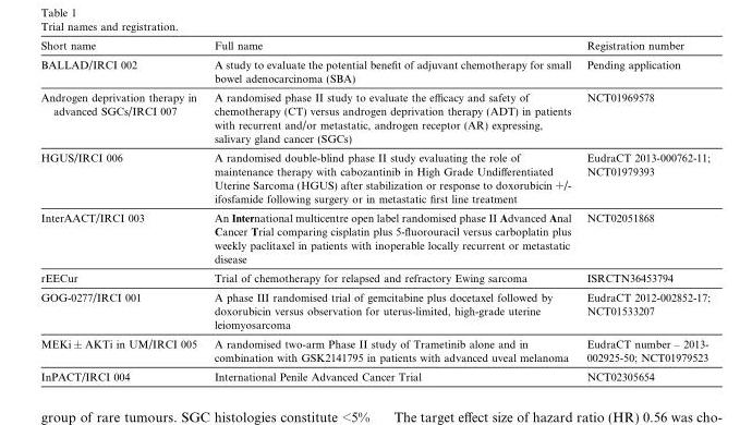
<table><thead><tr><td>Short name</td><td>Full name</td><td>Registration number</td></tr></thead><tbody><tr><td>BALLAD/IRCI 002</td><td>A study to evaluate the potential benefit of adjuvant chemotherapy for small bowel adenocarcinoma (SBA)</td><td>Pending application</td></tr><tr><td>Androgen deprivation therapy in advanced SGCs/IRCI 007</td><td>A randomised phase II study to evaluate the efficacy and safety of chemotherapy (CT) versus androgen deprivation therapy (ADT) in patients with recurrent and/or metastatic, androgen receptor (AR) expressing, salivary gland cancer (SGCs)</td><td>NCT01969578</td></tr><tr><td>HGUS/IRCI 006</td><td>A randomised double-blind phase II study evaluating the role of maintenance therapy with cabozantinib in High Grade Undifferentiated Uterine Sarcoma (HGUS) after stabilization or response to doxorubicin +/- ifosfamide following surgery or in metastatic first line treatment</td><td>EudraCT 2013-000762-11; NCT01979393</td></tr><tr><td>InterAACT/IRCI 003</td><td>An International multicentre open label randomised phase II Advanced Anal Cancer Trial comparing cisplatin plus 5-fluorouracil versus carboplatin plus weekly paclitaxel in patients with inoperable locally recurrent or metastatic disease</td><td>NCT02051868</td></tr><tr><td>rEECur</td><td>Trial of chemotherapy for relapsed and refractory Ewing sarcoma</td><td>ISRCTN36453794</td></tr><tr><td>GOG-0277/IRCI 001</td><td>A phase III randomised trial of gemcitabine plus docetaxel followed by doxorubicin versus observation for uterus-limited, high-grade uterine leiomyosarcoma</td><td>EudraCT 2012-002852-17; NCT01533207</td></tr><tr><td>MEKi ± AKTi in UM/IRCI 005</td><td>A randomised two-arm Phase II study of Trametinib alone and in combination with GSK2141795 in patients with advanced uveal melanoma</td><td>EudraCT number – 2013- 002925-50; NCT01979523</td></tr><tr><td>InPACT/IRCI 004</td><td>International Penile Advanced Cancer Trial</td><td>NCT02305654</td></tr></tbody></table>